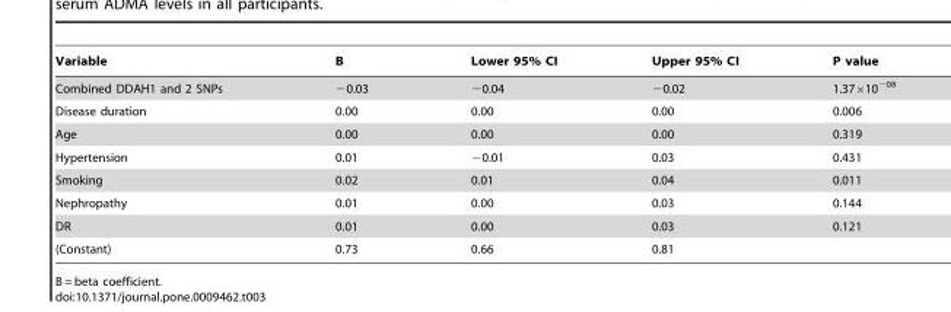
<table><thead><tr><td>Variable</td><td>B</td><td>Lower 95% CI</td><td>Upper 95% CI</td><td>P value</td></tr></thead><tbody><tr><td>Combined DDAH1 and 2 SNPs</td><td>−0.03</td><td>−0.04</td><td>−0.02</td><td>1.37×10<sup>−08</sup></td></tr><tr><td>Disease duration</td><td>0.00</td><td>0.00</td><td>0.00</td><td>0.006</td></tr><tr><td>Age</td><td>0.00</td><td>0.00</td><td>0.00</td><td>0.319</td></tr><tr><td>Hypertension</td><td>0.01</td><td>−0.01</td><td>0.03</td><td>0.431</td></tr><tr><td>Smoking</td><td>0.02</td><td>0.01</td><td>0.04</td><td>0.011</td></tr><tr><td>Nephropathy</td><td>0.01</td><td>0.00</td><td>0.03</td><td>0.144</td></tr><tr><td>DR</td><td>0.01</td><td>0.00</td><td>0.03</td><td>0.121</td></tr><tr><td>(Constant)</td><td>0.73</td><td>0.66</td><td>0.81</td><td></td></tr></tbody></table>